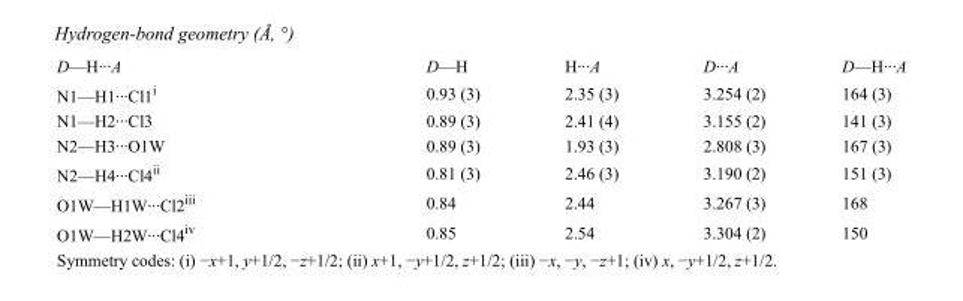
<table><tbody><tr><td>D—H···A</td><td>D—H</td><td>H···A</td><td>D···A</td><td>D—H···A</td></tr><tr><td>N1—H1···Cl1<sup>i</sup></td><td>0.93 (3)</td><td>2.35 (3)</td><td>3.254 (2)</td><td>164 (3)</td></tr><tr><td>N1—H2···Cl3</td><td>0.89 (3)</td><td>2.41 (4)</td><td>3.155 (2)</td><td>141 (3)</td></tr><tr><td>N2—H3···O1W</td><td>0.89 (3)</td><td>1.93 (3)</td><td>2.808 (3)</td><td>167 (3)</td></tr><tr><td>N2—H4···Cl4<sup>ii</sup></td><td>0.81 (3)</td><td>2.46 (3)</td><td>3.190 (2)</td><td>151 (3)</td></tr><tr><td>O1W—H1W···Cl2<sup>iii</sup></td><td>0.84</td><td>2.44</td><td>3.267 (3)</td><td>168</td></tr><tr><td>O1W—H2W···Cl4<sup>iv</sup></td><td>0.85</td><td>2.54</td><td>3.304 (2)</td><td>150</td></tr></tbody></table>